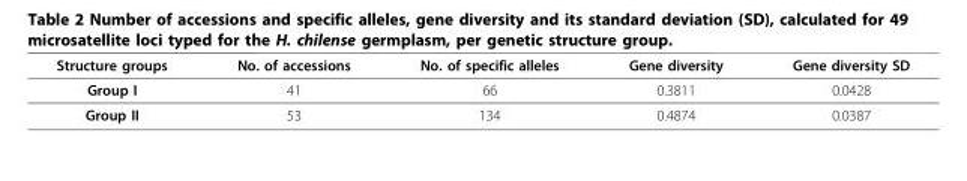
<table><thead><tr><td>Structure groups</td><td>No. of accessions</td><td>No. of specific alleles</td><td>Gene diversity</td><td>Gene diversity SD</td></tr></thead><tbody><tr><td>Group I</td><td>41</td><td>66</td><td>0.3811</td><td>0.0428</td></tr><tr><td>Group II</td><td>53</td><td>134</td><td>0.4874</td><td>0.0387</td></tr></tbody></table>